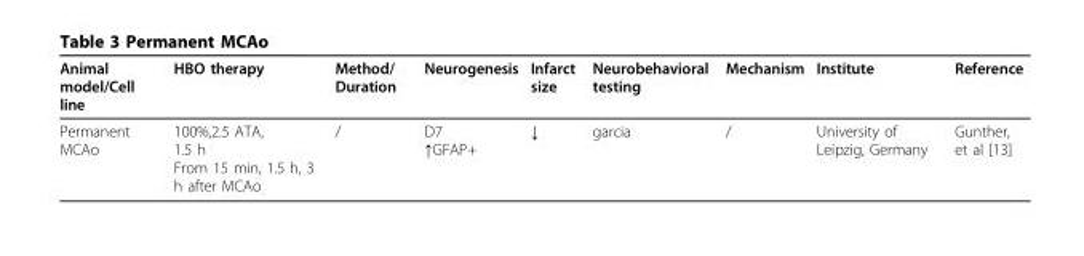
<table><thead><tr><td>Animal model/Cell line</td><td>HBO therapy</td><td>Method/ Duration</td><td>Neurogenesis</td><td>Infarct size</td><td>Neurobehavioral testing</td><td>Mechanism</td><td>Institute</td><td>Reference</td></tr></thead><tbody><tr><td>Permanent MCAo</td><td>100%,2.5 ATA, 1.5 h From 15 min, 1.5 h, 3 h after MCAo</td><td>/</td><td>D7 ↑GFAP+</td><td>↓</td><td>garcia</td><td>/</td><td>University of Leipzig, Germany</td><td>Gunther, et al [13]</td></tr></tbody></table>